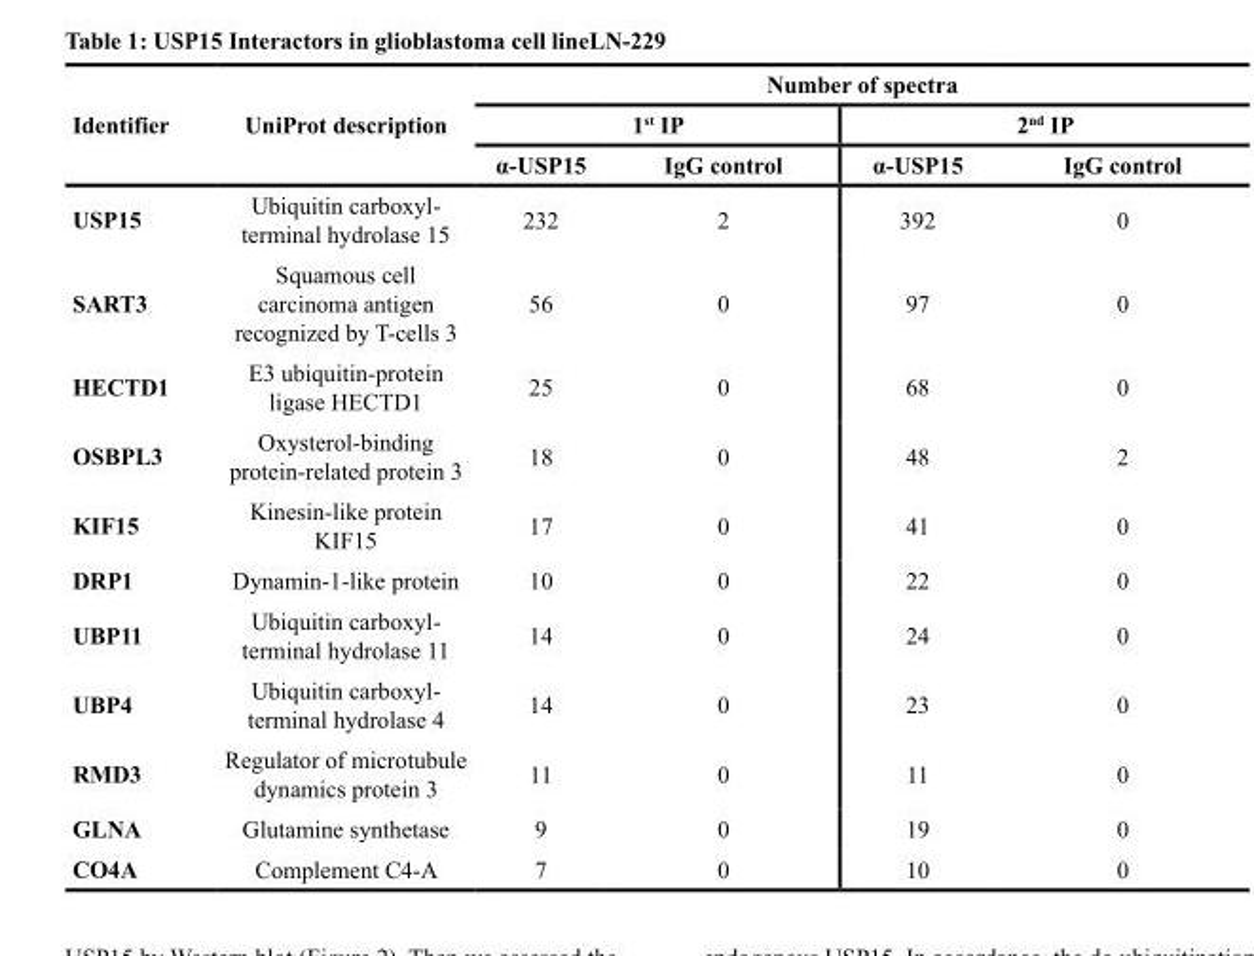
<table><thead><tr><td rowspan="3">Identifier</td><td rowspan="3">UniProt description</td><td colspan="4">Number of spectra</td></tr><tr><td colspan="2">1<sup>st</sup> IP</td><td colspan="2">2<sup>nd</sup> IP</td></tr><tr><td>α-USP15</td><td>IgG control</td><td>α-USP15</td><td>IgG control</td></tr></thead><tbody><tr><td>USP15</td><td>Ubiquitin carboxyl- terminal hydrolase 15</td><td>232</td><td>2</td><td>392</td><td>0</td></tr><tr><td>SART3</td><td>Squamous cell carcinoma antigen recognized by T-cells 3</td><td>56</td><td>0</td><td>97</td><td>0</td></tr><tr><td>HECTD1</td><td>E3 ubiquitin-protein ligase HECTD1</td><td>25</td><td>0</td><td>68</td><td>0</td></tr><tr><td>OSBPL3</td><td>Oxysterol-binding protein-related protein 3</td><td>18</td><td>0</td><td>48</td><td>2</td></tr><tr><td>KIF15</td><td>Kinesin-like protein KIF15</td><td>17</td><td>0</td><td>41</td><td>0</td></tr><tr><td>DRP1</td><td>Dynamin-1-like protein</td><td>10</td><td>0</td><td>22</td><td>0</td></tr><tr><td>UBP11</td><td>Ubiquitin carboxyl- terminal hydrolase 11</td><td>14</td><td>0</td><td>24</td><td>0</td></tr><tr><td>UBP4</td><td>Ubiquitin carboxyl- terminal hydrolase 4</td><td>14</td><td>0</td><td>23</td><td>0</td></tr><tr><td>RMD3</td><td>Regulator of microtubule dynamics protein 3</td><td>11</td><td>0</td><td>11</td><td>0</td></tr><tr><td>GLNA</td><td>Glutamine synthetase</td><td>9</td><td>0</td><td>19</td><td>0</td></tr><tr><td>CO4A</td><td>Complement C4-A</td><td>7</td><td>0</td><td>10</td><td>0</td></tr></tbody></table>